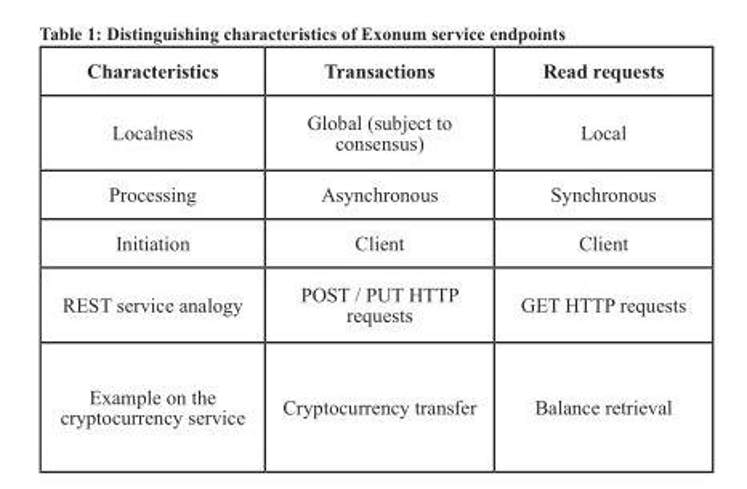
<table><thead><tr><td>Characteristics</td><td>Transactions</td><td>Read requests</td></tr></thead><tbody><tr><td>Localness</td><td>Global (subject to consensus)</td><td>Local</td></tr><tr><td>Processing</td><td>Asynchronous</td><td>Synchronous</td></tr><tr><td>Initiation</td><td>Client</td><td>Client</td></tr><tr><td>REST service analogy</td><td>POST / PUT HTTP requests</td><td>GET HTTP requests</td></tr><tr><td>Example on the cryptocurrency service</td><td>Cryptocurrency transfer</td><td>Balance retrieval</td></tr></tbody></table>